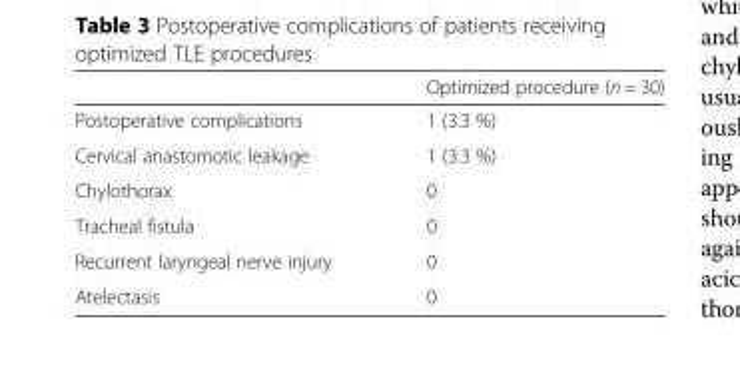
<table><thead><tr><td></td><td>Optimized procedure (n = 30)</td></tr></thead><tbody><tr><td>Postoperative complications</td><td>1 (3.3 %)</td></tr><tr><td>Cervical anastomotic leakage</td><td>1 (3.3 %)</td></tr><tr><td>Chylothorax</td><td>0</td></tr><tr><td>Tracheal fistula</td><td>0</td></tr><tr><td>Recurrent laryngeal nerve injury</td><td>0</td></tr><tr><td>Atelectasis</td><td>0</td></tr></tbody></table>